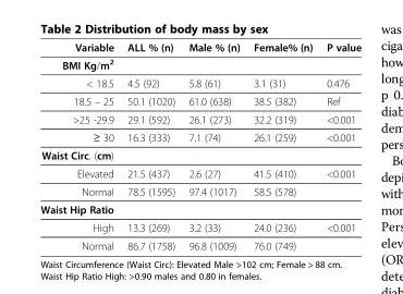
<table><thead><tr><td>Variable</td><td>ALL % (n)</td><td>Male % (n)</td><td>Female% (n)</td><td>P value</td></tr></thead><tbody><tr><td colspan="5">BMI Kg/m<sup>2</sup></td></tr><tr><td>&lt; 18.5</td><td>4.5 (92)</td><td>5.8 (61)</td><td>3.1 (31)</td><td>0.476</td></tr><tr><td>18.5 – 25</td><td>50.1 (1020)</td><td>61.0 (638)</td><td>38.5 (382)</td><td>Ref</td></tr><tr><td>&gt;25 -29.9</td><td>29.1 (592)</td><td>26.1 (273)</td><td>32.2 (319)</td><td>&lt;0.001</td></tr><tr><td>≥ 30</td><td>16.3 (333)</td><td>7.1 (74)</td><td>26.1 (259)</td><td>&lt;0.001</td></tr><tr><td colspan="5">Waist Circ. (cm)</td></tr><tr><td>Elevated</td><td>21.5 (437)</td><td>2.6 (27)</td><td>41.5 (410)</td><td>&lt;0.001</td></tr><tr><td>Normal</td><td>78.5 (1595)</td><td>97.4 (1017)</td><td>58.5 (578)</td><td></td></tr><tr><td colspan="5">Waist Hip Ratio</td></tr><tr><td>High</td><td>13.3 (269)</td><td>3.2 (33)</td><td>24.0 (236)</td><td>&lt;0.001</td></tr><tr><td>Normal</td><td>86.7 (1758)</td><td>96.8 (1009)</td><td>76.0 (749)</td><td></td></tr></tbody></table>